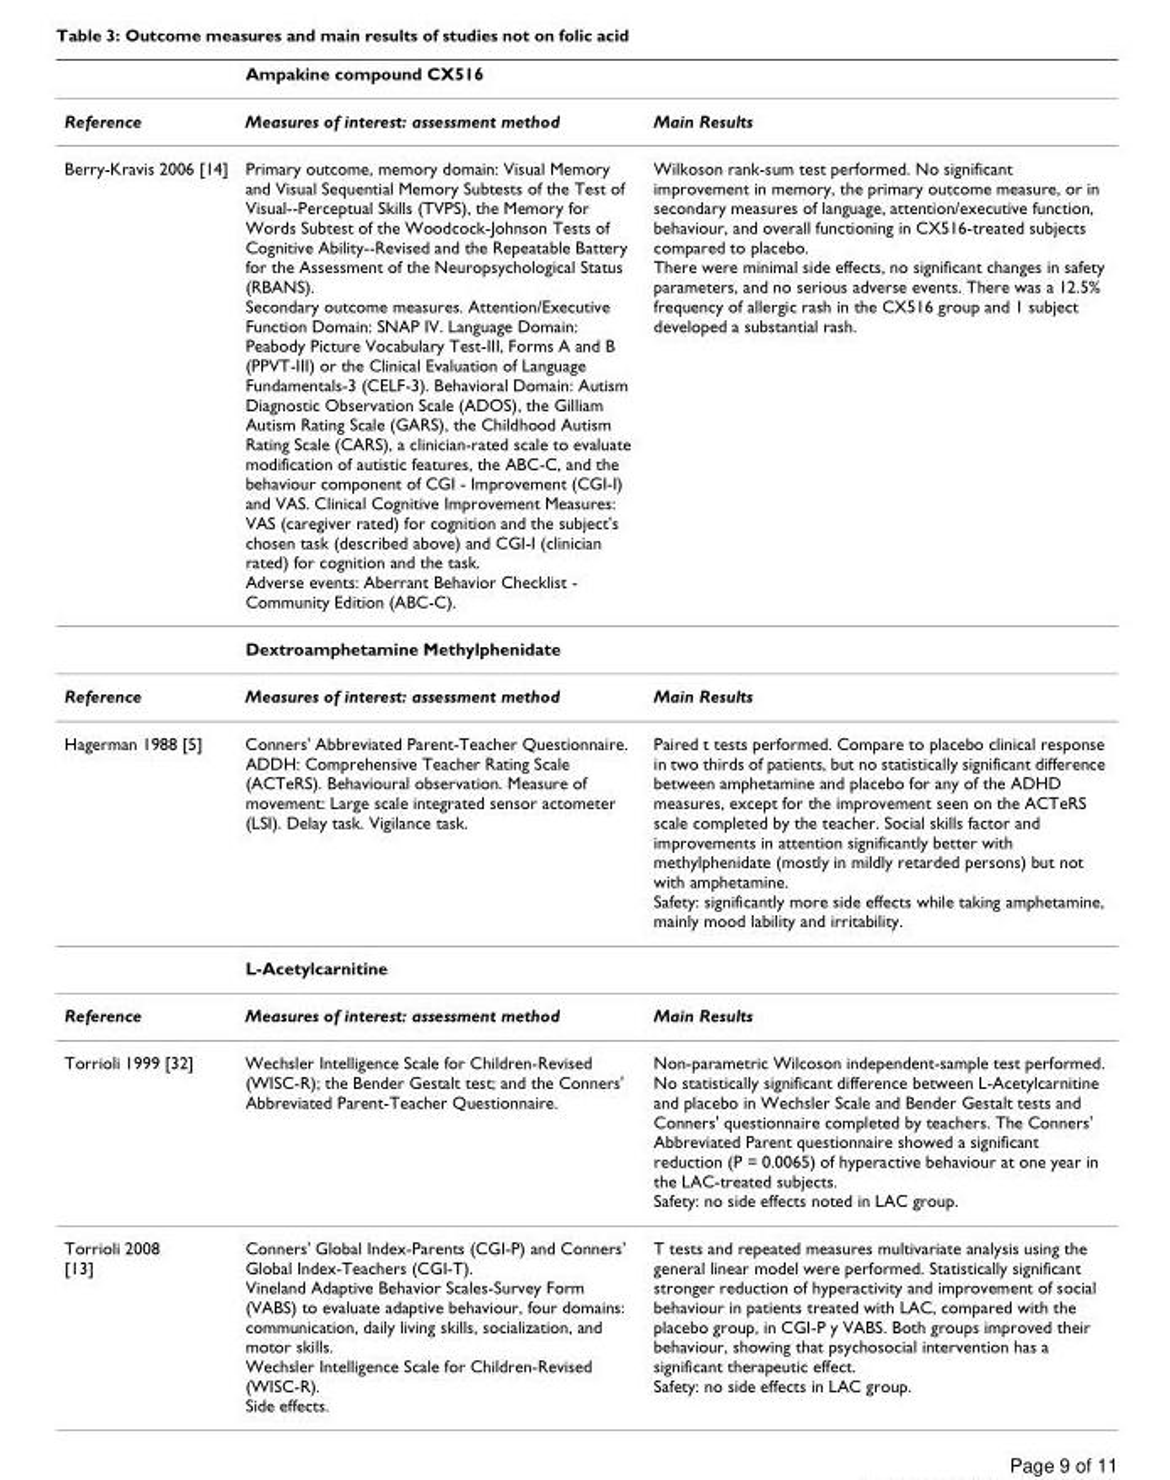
<table><thead><tr><td></td><td>Ampakine compound CX516</td><td></td></tr></thead><tbody><tr><td>Reference</td><td>Measures of interest: assessment method</td><td>Main Results</td></tr><tr><td rowspan="2">Berry-Kravis 2006 [14]</td><td>Primary outcome, memory domain: Visual Memory and Visual Sequential Memory Subtests of the Test of Visual--Perceptual Skills (TVPS), the Memory for Words Subtest of the Woodcock-Johnson Tests of Cognitive Ability--Revised and the Repeatable Battery for the Assessment of the Neuropsychological Status (RBANS). Secondary outcome measures. Attention/Executive Function Domain: SNAP IV. Language Domain: Peabody Picture Vocabulary Test-III, Forms A and B (PPVT-III) or the Clinical Evaluation of Language Fundamentals-3 (CELF-3). Behavioral Domain: Autism Diagnostic Observation Scale (ADOS), the Gilliam Autism Rating Scale (GARS), the Childhood Autism Rating Scale (CARS), a clinician-rated scale to evaluate modification of autistic features, the ABC-C, and the behaviour component of CGI - Improvement (CGI-I) and VAS. Clinical Cognitive Improvement Measures: VAS (caregiver rated) for cognition and the subject&#x27;s chosen task (described above) and CGI-I (clinician rated) for cognition and the task. Adverse events: Aberrant Behavior Checklist - Community Edition (ABC-C).</td><td>Wilkoson rank-sum test performed. No significant improvement in memory, the primary outcome measure, or in secondary measures of language, attention/executive function, behaviour, and overall functioning in CX516-treated subjects compared to placebo. There were minimal side effects, no significant changes in safety parameters, and no serious adverse events. There was a 12.5% frequency of allergic rash in the CX516 group and 1 subject developed a substantial rash.</td></tr><tr><td>Dextroamphetamine Methylphenidate</td><td></td></tr><tr><td>Reference</td><td>Measures of interest: assessment method</td><td>Main Results</td></tr><tr><td rowspan="2">Hagerman 1988 [5]</td><td>Conners&#x27; Abbreviated Parent-Teacher Questionnaire. ADDH: Comprehensive Teacher Rating Scale (ACTeRS). Behavioural observation. Measure of movement: Large scale integrated sensor actometer (LSI). Delay task. Vigilance task.</td><td>Paired t tests performed. Compare to placebo clinical response in two thirds of patients, but no statistically significant difference between amphetamine and placebo for any of the ADHD measures, except for the improvement seen on the ACTeRS scale completed by the teacher. Social skills factor and improvements in attention significantly better with methylphenidate (mostly in mildly retarded persons) but not with amphetamine. Safety: significantly more side effects while taking amphetamine, mainly mood lability and irritability.</td></tr><tr><td>L-Acetylcarnitine</td><td></td></tr><tr><td>Reference</td><td>Measures of interest: assessment method</td><td>Main Results</td></tr><tr><td>Torrioli 1999 [32]</td><td>Wechsler Intelligence Scale for Children-Revised (WISC-R); the Bender Gestalt test; and the Conners&#x27; Abbreviated Parent-Teacher Questionnaire.</td><td>Non-parametric Wilcoson independent-sample test performed. No statistically significant difference between L-Acetylcarnitine and placebo in Wechsler Scale and Bender Gestalt tests and Conners&#x27; questionnaire completed by teachers. The Conners&#x27; Abbreviated Parent questionnaire showed a significant reduction (P = 0.0065) of hyperactive behaviour at one year in the LAC-treated subjects. Safety: no side effects noted in LAC group.</td></tr><tr><td>Torrioli 2008 [13]</td><td>Conners&#x27; Global Index-Parents (CGI-P) and Conners&#x27; Global Index-Teachers (CGI-T). Vineland Adaptive Behavior Scales-Survey Form (VABS) to evaluate adaptive behaviour, four domains: communication, daily living skills, socialization, and motor skills. Wechsler Intelligence Scale for Children-Revised (WISC-R). Side effects.</td><td>T tests and repeated measures multivariate analysis using the general linear model were performed. Statistically significant stronger reduction of hyperactivity and improvement of social behaviour in patients treated with LAC, compared with the placebo group, in CGI-P y VABS. Both groups improved their behaviour, showing that psychosocial intervention has a significant therapeutic effect. Safety: no side effects in LAC group.</td></tr></tbody></table>